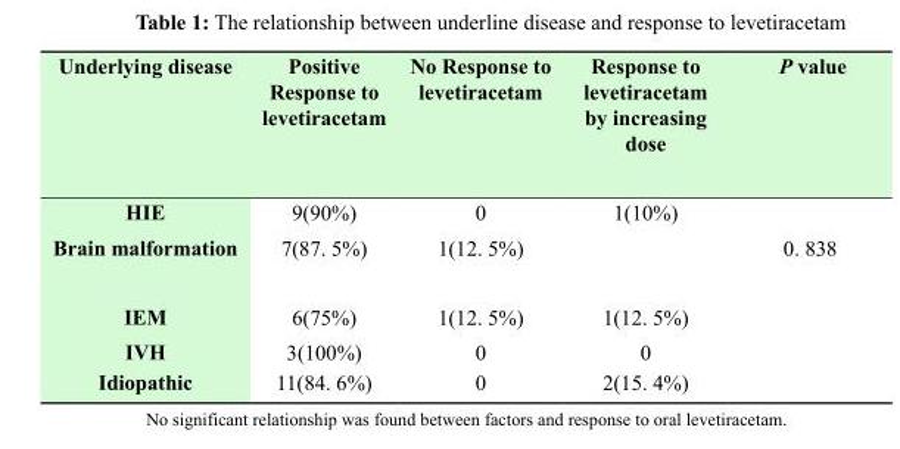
<table><thead><tr><td>Underlying disease</td><td>Positive Response to levetiracetam</td><td>No Response to levetiracetam</td><td>Response to levetiracetam by increasing dose</td><td>P value</td></tr></thead><tbody><tr><td>HIE</td><td>9(90%)</td><td>0</td><td>1(10%)</td><td></td></tr><tr><td>Brain malformation</td><td>7(87. 5%)</td><td>1(12. 5%)</td><td></td><td>0. 838</td></tr><tr><td>IEM</td><td>6(75%)</td><td>1(12. 5%)</td><td>1(12. 5%)</td><td></td></tr><tr><td>IVH</td><td>3(100%)</td><td>0</td><td>0</td><td></td></tr><tr><td>Idiopathic</td><td>11(84. 6%)</td><td>0</td><td>2(15. 4%)</td><td></td></tr></tbody></table>